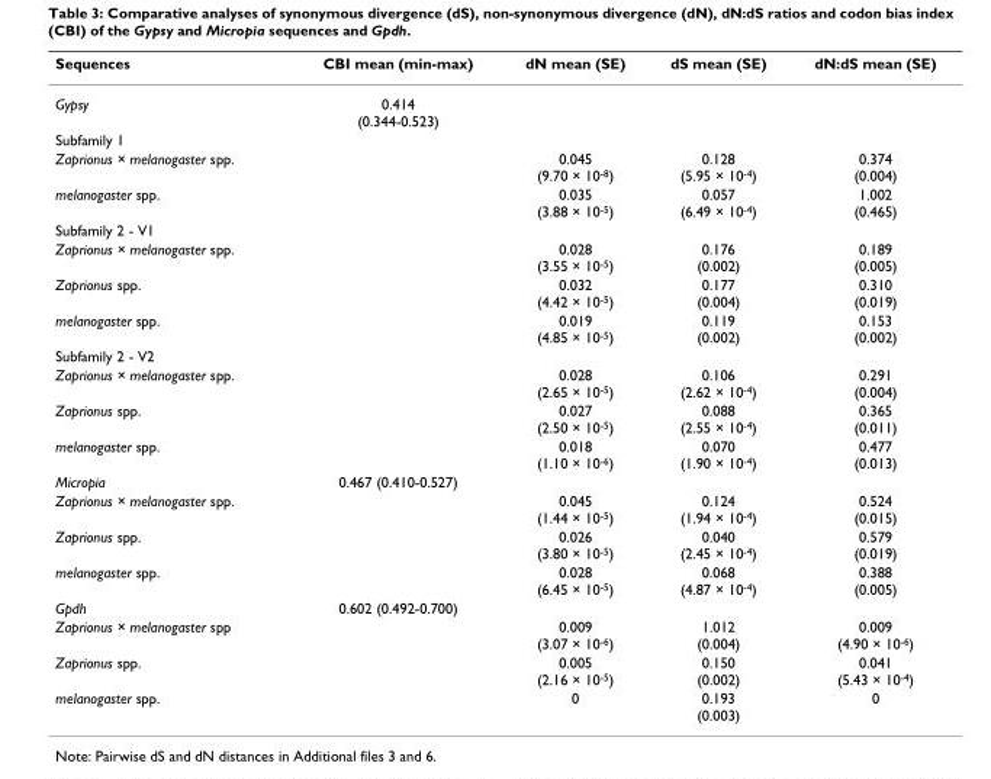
<table><thead><tr><td>Sequences</td><td>CBI mean (min-max)</td><td>dN mean (SE)</td><td>dS mean (SE)</td><td>dN:dS mean (SE)</td></tr></thead><tbody><tr><td>Gypsy</td><td>0.414 (0.344-0.523)</td><td></td><td></td><td></td></tr><tr><td colspan="5">Subfamily 1</td></tr><tr><td>Zaprionus × melanogaster spp.</td><td></td><td>0.045 (9.70 × 10<sup>-8</sup>)</td><td>0.128 (5.95 × 10<sup>-4</sup>)</td><td>0.374 (0.004)</td></tr><tr><td>melanogaster spp.</td><td></td><td>0.035 (3.88 × 10<sup>-5</sup>)</td><td>0.057 (6.49 × 10<sup>-4</sup>)</td><td>1.002 (0.465)</td></tr><tr><td colspan="5">Subfamily 2 - V1</td></tr><tr><td>Zaprionus × melanogaster spp.</td><td></td><td>0.028 (3.55 × 10<sup>-5</sup>)</td><td>0.176 (0.002)</td><td>0.189 (0.005)</td></tr><tr><td>Zaprionus spp.</td><td></td><td>0.032 (4.42 × 10<sup>-5</sup>)</td><td>0.177 (0.004)</td><td>0.310 (0.019)</td></tr><tr><td>melanogaster spp.</td><td></td><td>0.019 (4.85 × 10<sup>-5</sup>)</td><td>0.119 (0.002)</td><td>0.153 (0.002)</td></tr><tr><td colspan="5">Subfamily 2 - V2</td></tr><tr><td>Zaprionus × melanogaster spp.</td><td></td><td>0.028 (2.65 × 10<sup>-5</sup>)</td><td>0.106 (2.62 × 10<sup>-4</sup>)</td><td>0.291 (0.004)</td></tr><tr><td>Zaprionus spp.</td><td></td><td>0.027 (2.50 × 10<sup>-5</sup>)</td><td>0.088 (2.55 × 10<sup>-4</sup>)</td><td>0.365 (0.011)</td></tr><tr><td>melanogaster spp.</td><td></td><td>0.018 (1.10 × 10<sup>-6</sup>)</td><td>0.070 (1.90 × 10<sup>-4</sup>)</td><td>0.477 (0.013)</td></tr><tr><td>Micropia</td><td>0.467 (0.410-0.527)</td><td></td><td></td><td></td></tr><tr><td>Zaprionus × melanogaster spp.</td><td></td><td>0.045 (1.44 × 10<sup>-5</sup>)</td><td>0.124 (1.94 × 10<sup>-4</sup>)</td><td>0.524 (0.015)</td></tr><tr><td>Zaprionus spp.</td><td></td><td>0.026 (3.80 × 10<sup>-5</sup>)</td><td>0.040 (2.45 × 10<sup>-4</sup>)</td><td>0.579 (0.019)</td></tr><tr><td>melanogaster spp.</td><td></td><td>0.028 (6.45 × 10<sup>-5</sup>)</td><td>0.068 (4.87 × 10<sup>-4</sup>)</td><td>0.388 (0.005)</td></tr><tr><td>Gpdh</td><td>0.602 (0.492-0.700)</td><td></td><td></td><td></td></tr><tr><td>Zaprionus × melanogaster spp</td><td></td><td>0.009 (3.07 × 10<sup>-6</sup>)</td><td>1.012 (0.004)</td><td>0.009 (4.90 × 10<sup>-6</sup>)</td></tr><tr><td>Zaprionus spp.</td><td></td><td>0.005 (2.16 × 10<sup>-5</sup>)</td><td>0.150 (0.002)</td><td>0.041 (5.43 × 10<sup>-4</sup>)</td></tr><tr><td>melanogaster spp.</td><td></td><td>0</td><td>0.193 (0.003)</td><td>0</td></tr></tbody></table>